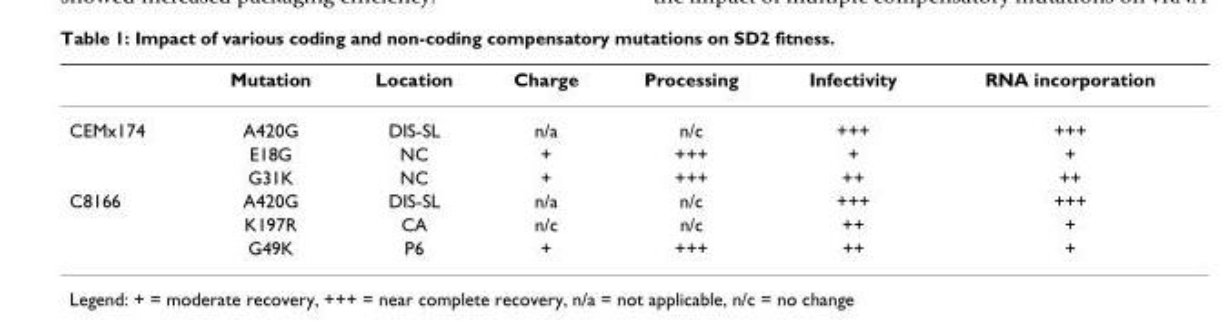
<table><thead><tr><td></td><td>Mutation</td><td>Location</td><td>Charge</td><td>Processing</td><td>Infectivity</td><td>RNA incorporation</td></tr></thead><tbody><tr><td rowspan="3">CEMx174</td><td>A420G</td><td>DIS-SL</td><td>n/a</td><td>n/c</td><td>+++</td><td>+++</td></tr><tr><td>E18G</td><td>NC</td><td>+</td><td>+++</td><td>+</td><td>+</td></tr><tr><td>G31K</td><td>NC</td><td>+</td><td>+++</td><td>++</td><td>++</td></tr><tr><td rowspan="3">C8166</td><td>A420G</td><td>DIS-SL</td><td>n/a</td><td>n/c</td><td>+++</td><td>+++</td></tr><tr><td>K197R</td><td>CA</td><td>n/c</td><td>n/c</td><td>++</td><td>+</td></tr><tr><td>G49K</td><td>P6</td><td>+</td><td>+++</td><td>++</td><td>+</td></tr></tbody></table>